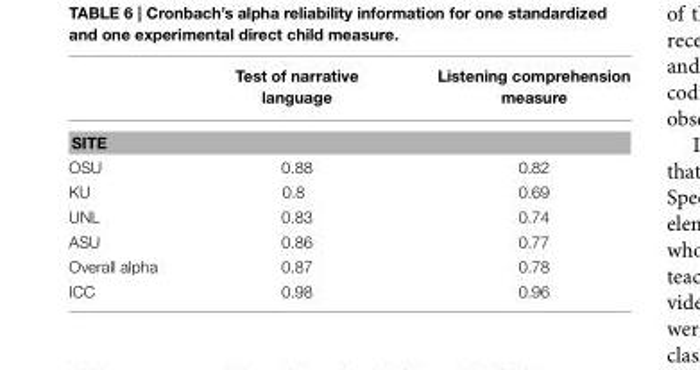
<table><thead><tr><td></td><td>Test of narrative language</td><td>Listening comprehension measure</td></tr></thead><tbody><tr><td colspan="3">SITE</td></tr><tr><td>OSU</td><td>0.88</td><td>0.82</td></tr><tr><td>KU</td><td>0.8</td><td>0.69</td></tr><tr><td>UNL</td><td>0.83</td><td>0.74</td></tr><tr><td>ASU</td><td>0.86</td><td>0.77</td></tr><tr><td>Overall alpha</td><td>0.87</td><td>0.78</td></tr><tr><td>ICC</td><td>0.98</td><td>0.96</td></tr></tbody></table>